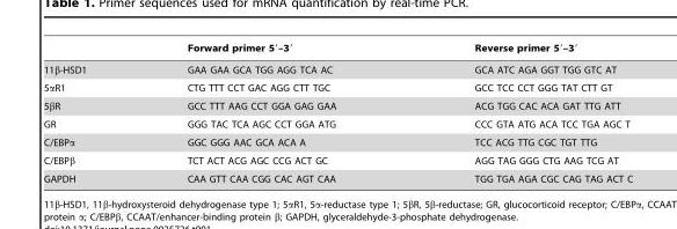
<table><thead><tr><td></td><td>Forward primer 5′–3′</td><td>Reverse primer 5′–3′</td></tr></thead><tbody><tr><td>11β-HSD1</td><td>GAA GAA GCA TGG AGG TCA AC</td><td>GCA ATC AGA GGT TGG GTC AT</td></tr><tr><td>5αR1</td><td>CTG TTT CCT GAC AGG CTT TGC</td><td>GCC TCC CCT GGG TAT CTT GT</td></tr><tr><td>5βR</td><td>GCC TTT AAG CCT GGA GAG GAA</td><td>ACG TGG CAC ACA GAT TTG ATT</td></tr><tr><td>GR</td><td>GGG TAC TCA AGC CCT GGA ATG</td><td>CCC GTA ATG ACA TCC TGA AGC T</td></tr><tr><td>C/EBPα</td><td>GGC GGG AAC GCA ACA A</td><td>TCC ACG TTG CGC TGT TTG</td></tr><tr><td>C/EBPβ</td><td>TCT ACT ACG AGC CCG ACT GC</td><td>AGG TAG GGG CTG AAG TCG AT</td></tr><tr><td>GAPDH</td><td>CAA GTT CAA CGG CAC AGT CAA</td><td>TGG TGA AGA CGC CAG TAG ACT C</td></tr></tbody></table>